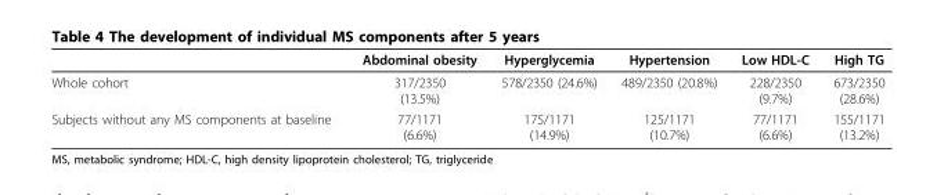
<table><thead><tr><td></td><td>Abdominal obesity</td><td>Hyperglycemia</td><td>Hypertension</td><td>Low HDL-C</td><td>High TG</td></tr></thead><tbody><tr><td>Whole cohort</td><td>317/2350 (13.5%)</td><td>578/2350 (24.6%)</td><td>489/2350 (20.8%)</td><td>228/2350 (9.7%)</td><td>673/2350 (28.6%)</td></tr><tr><td>Subjects without any MS components at baseline</td><td>77/1171 (6.6%)</td><td>175/1171 (14.9%)</td><td>125/1171 (10.7%)</td><td>77/1171 (6.6%)</td><td>155/1171 (13.2%)</td></tr></tbody></table>